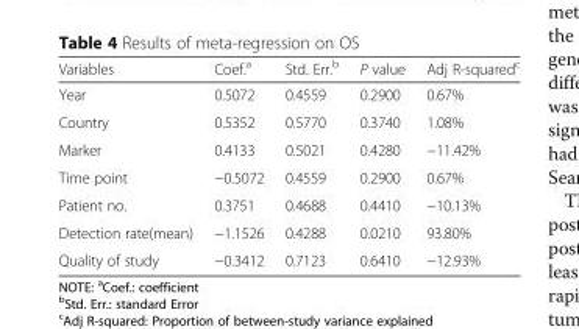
<table><thead><tr><td>Variables</td><td>Coef.<sup>a</sup></td><td>Std. Err.<sup>b</sup></td><td>P value</td><td>Adj R-squared<sup>c</sup></td></tr></thead><tbody><tr><td>Year</td><td>0.5072</td><td>0.4559</td><td>0.2900</td><td>0.67%</td></tr><tr><td>Country</td><td>0.5352</td><td>0.5770</td><td>0.3740</td><td>1.08%</td></tr><tr><td>Marker</td><td>0.4133</td><td>0.5021</td><td>0.4280</td><td>−11.42%</td></tr><tr><td>Time point</td><td>−0.5072</td><td>0.4559</td><td>0.2900</td><td>0.67%</td></tr><tr><td>Patient no.</td><td>0.3751</td><td>0.4688</td><td>0.4410</td><td>−10.13%</td></tr><tr><td>Detection rate(mean)</td><td>−1.1526</td><td>0.4288</td><td>0.0210</td><td>93.80%</td></tr><tr><td>Quality of study</td><td>−0.3412</td><td>0.7123</td><td>0.6410</td><td>−12.93%</td></tr></tbody></table>